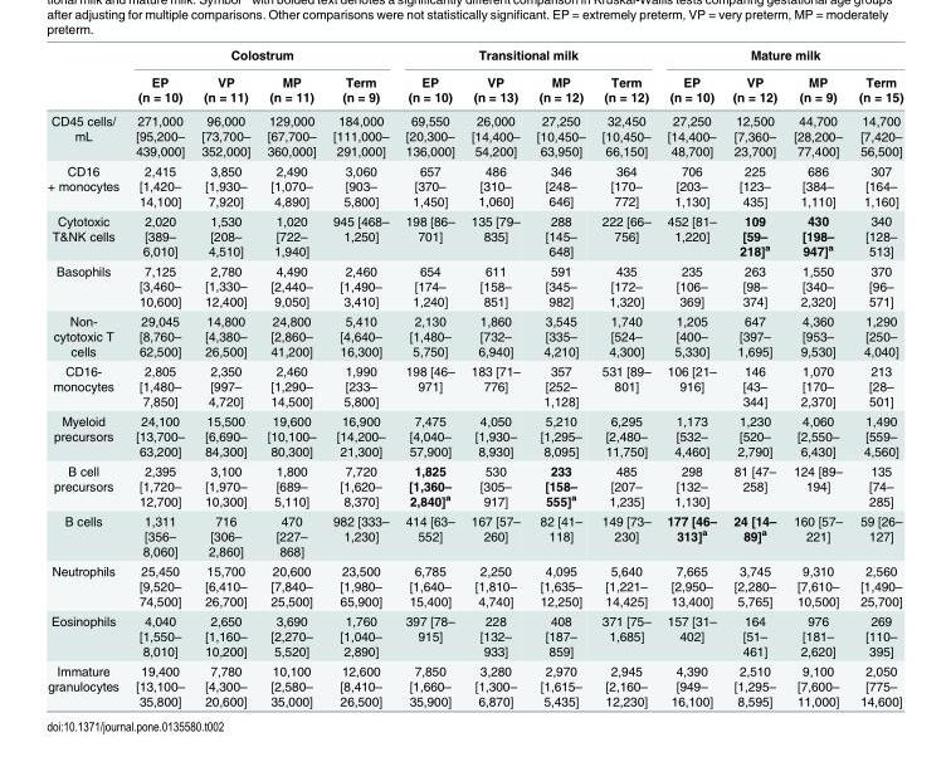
<table><thead><tr><td rowspan="2"></td><td colspan="4">Colostrum</td><td colspan="4">Transitional milk</td><td colspan="4">Mature milk</td></tr><tr><td>EP (n = 10)</td><td>VP (n = 11)</td><td>MP (n = 11)</td><td>Term (n = 9)</td><td>EP (n = 10)</td><td>VP (n = 13)</td><td>MP (n = 12)</td><td>Term (n = 12)</td><td>EP (n = 10)</td><td>VP (n = 12)</td><td>MP (n = 9)</td><td>Term (n = 15)</td></tr></thead><tbody><tr><td>CD45 cells/ mL</td><td>271,000 [95,200– 439,000]</td><td>96,000 [73,700– 352,000]</td><td>129,000 [67,700– 360,000]</td><td>184,000 [111,000– 291,000]</td><td>69,550 [20,300– 136,000]</td><td>26,000 [14,400– 54,200]</td><td>27,250 [10,450– 63,950]</td><td>32,450 [10,450– 66,150]</td><td>27,250 [14,400– 48,700]</td><td>12,500 [7,360– 23,700]</td><td>44,700 [28,200– 77,400]</td><td>14,700 [7,420– 56,500]</td></tr><tr><td>CD16 + monocytes</td><td>2,415 [1,420– 14,100]</td><td>3,850 [1,930– 7,920]</td><td>2,490 [1,070– 4,890]</td><td>3,060 [903– 5,800]</td><td>657 [370– 1,450]</td><td>486 [310– 1,060]</td><td>346 [248– 646]</td><td>364 [170– 772]</td><td>706 [203– 1,130]</td><td>225 [123– 435]</td><td>686 [384– 1,110]</td><td>307 [164– 1,160]</td></tr><tr><td>Cytotoxic T&amp;NK cells</td><td>2,020 [389– 6,010]</td><td>1,530 [208– 4,510]</td><td>1,020 [722– 1,940]</td><td>945 [468– 1,250]</td><td>198 [86– 701]</td><td>135 [79– 835]</td><td>288 [145– 648]</td><td>222 [66– 756]</td><td>452 [81– 1,220]</td><td>109 [59– 218]<sup>a</sup></td><td>430 [198– 947]<sup>a</sup></td><td>340 [128– 513]</td></tr><tr><td>Basophils</td><td>7,125 [3,460– 10,600]</td><td>2,780 [1,330– 12,400]</td><td>4,490 [2,440– 9,050]</td><td>2,460 [1,490– 3,410]</td><td>654 [174– 1,240]</td><td>611 [158– 851]</td><td>591 [345– 982]</td><td>435 [172– 1,320]</td><td>235 [106– 369]</td><td>263 [98– 374]</td><td>1,550 [340– 2,320]</td><td>370 [96– 571]</td></tr><tr><td>Non- cytotoxic T cells</td><td>29,045 [8,760– 62,500]</td><td>14,800 [4,380– 26,500]</td><td>24,800 [2,860– 41,200]</td><td>5,410 [4,640– 16,300]</td><td>2,130 [1,480– 5,750]</td><td>1,860 [732– 6,940]</td><td>3,545 [335– 4,210]</td><td>1,740 [524– 4,300]</td><td>1,205 [400– 5,330]</td><td>647 [397– 1,695]</td><td>4,360 [953– 9,530]</td><td>1,290 [250– 4,040]</td></tr><tr><td>CD16- monocytes</td><td>2,805 [1,480– 7,850]</td><td>2,350 [997– 4,720]</td><td>2,460 [1,290– 14,500]</td><td>1,990 [233– 5,800]</td><td>198 [46– 971]</td><td>183 [71– 776]</td><td>357 [252– 1,128]</td><td>531 [89– 801]</td><td>106 [21– 916]</td><td>146 [43– 344]</td><td>1,070 [170– 2,370]</td><td>213 [28– 501]</td></tr><tr><td>Myeloid precursors</td><td>24,100 [13,700– 63,200]</td><td>15,500 [6,690– 84,300]</td><td>19,600 [10,100– 80,300]</td><td>16,900 [14,200– 21,300]</td><td>7,475 [4,040– 57,900]</td><td>4,050 [1,930– 8,930]</td><td>5,210 [1,295– 8,095]</td><td>6,295 [2,480– 11,750]</td><td>1,173 [532– 4,460]</td><td>1,230 [520– 2,790]</td><td>4,060 [2,550– 6,430]</td><td>1,490 [559– 4,560]</td></tr><tr><td>B cell precursors</td><td>2,395 [1,720– 12,700]</td><td>3,100 [1,970– 10,300]</td><td>1,800 [689– 5,110]</td><td>7,720 [1,620– 8,370]</td><td>1,825 [1,360– 2,840]<sup>a</sup></td><td>530 [305– 917]</td><td>233 [158– 555]<sup>a</sup></td><td>485 [207– 1,235]</td><td>298 [132– 1,130]</td><td>81 [47– 258]</td><td>124 [89– 194]</td><td>135 [74– 285]</td></tr><tr><td>B cells</td><td>1,311 [356– 8,060]</td><td>716 [306– 2,860]</td><td>470 [227– 868]</td><td>982 [333– 1,230]</td><td>414 [63– 552]</td><td>167 [57– 260]</td><td>82 [41– 118]</td><td>149 [73– 230]</td><td>177 [46– 313]<sup>a</sup></td><td>24 [14– 89]<sup>a</sup></td><td>160 [57– 221]</td><td>59 [26– 127]</td></tr><tr><td>Neutrophils</td><td>25,450 [9,520– 74,500]</td><td>15,700 [6,410– 26,700]</td><td>20,600 [7,840– 25,500]</td><td>23,500 [1,980– 65,900]</td><td>6,785 [1,640– 15,400]</td><td>2,250 [1,810– 4,740]</td><td>4,095 [1,635– 12,250]</td><td>5,640 [1,221– 14,425]</td><td>7,665 [2,950– 13,400]</td><td>3,745 [2,280– 5,765]</td><td>9,310 [7,610– 10,500]</td><td>2,560 [1,490– 25,700]</td></tr><tr><td>Eosinophils</td><td>4,040 [1,550– 8,010]</td><td>2,650 [1,160– 10,200]</td><td>3,690 [2,270– 5,520]</td><td>1,760 [1,040– 2,890]</td><td>397 [78– 915]</td><td>228 [132– 933]</td><td>408 [187– 859]</td><td>371 [75– 1,685]</td><td>157 [31– 402]</td><td>164 [51– 461]</td><td>976 [181– 2,620]</td><td>269 [110– 395]</td></tr><tr><td>Immature granulocytes</td><td>19,400 [13,100– 35,800]</td><td>7,780 [4,300– 20,600]</td><td>10,100 [2,580– 35,000]</td><td>12,600 [8,410– 26,500]</td><td>7,850 [1,660– 35,900]</td><td>3,280 [1,300– 6,870]</td><td>2,970 [1,615– 5,435]</td><td>2,945 [2,160– 12,230]</td><td>4,390 [949– 16,100]</td><td>2,510 [1,295– 8,595]</td><td>9,100 [7,600– 11,000]</td><td>2,050 [775– 14,600]</td></tr></tbody></table>